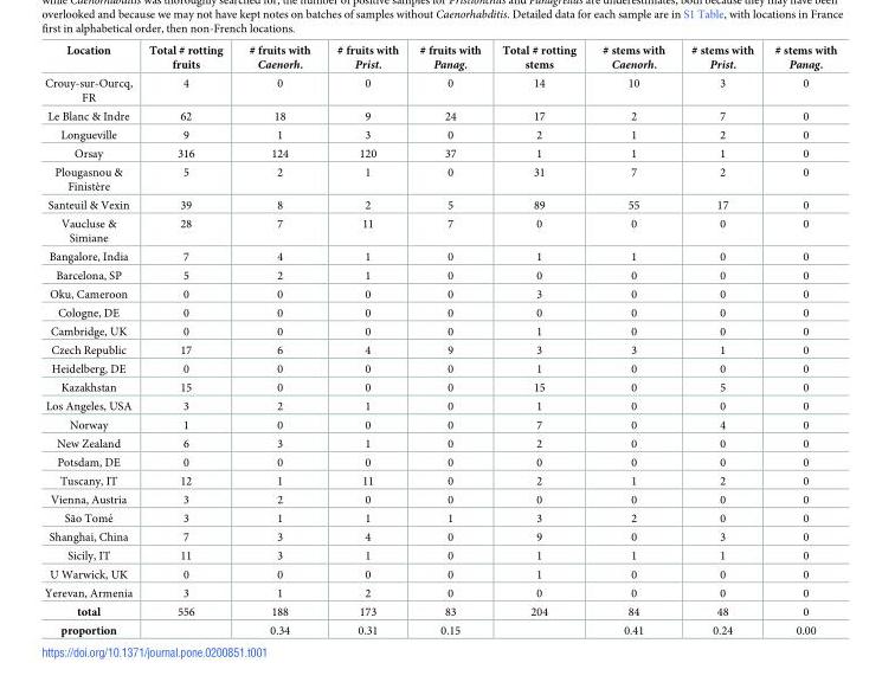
<table><thead><tr><td>Location</td><td>Total # rotting fruits</td><td># fruits with Caenorh.</td><td># fruits with Prist.</td><td># fruits with Panag.</td><td>Total # rotting stems</td><td># stems with Caenorh.</td><td># stems with Prist.</td><td># stems with Panag.</td></tr></thead><tbody><tr><td>Crouy-sur-Ourcq, FR</td><td>4</td><td>0</td><td>0</td><td>0</td><td>14</td><td>10</td><td>3</td><td>0</td></tr><tr><td>Le Blanc &amp; Indre</td><td>62</td><td>18</td><td>9</td><td>24</td><td>17</td><td>2</td><td>7</td><td>0</td></tr><tr><td>Longueville</td><td>9</td><td>1</td><td>3</td><td>0</td><td>2</td><td>1</td><td>2</td><td>0</td></tr><tr><td>Orsay</td><td>316</td><td>124</td><td>120</td><td>37</td><td>1</td><td>1</td><td>1</td><td>0</td></tr><tr><td>Plougasnou &amp; Finistère</td><td>5</td><td>2</td><td>1</td><td>0</td><td>31</td><td>7</td><td>2</td><td>0</td></tr><tr><td>Santeuil &amp; Vexin</td><td>39</td><td>8</td><td>2</td><td>5</td><td>89</td><td>55</td><td>17</td><td>0</td></tr><tr><td>Vaucluse &amp; Simiane</td><td>28</td><td>7</td><td>11</td><td>7</td><td>0</td><td>0</td><td>0</td><td>0</td></tr><tr><td>Bangalore, India</td><td>7</td><td>4</td><td>1</td><td>0</td><td>1</td><td>1</td><td>0</td><td>0</td></tr><tr><td>Barcelona, SP</td><td>5</td><td>2</td><td>1</td><td>0</td><td>0</td><td>0</td><td>0</td><td>0</td></tr><tr><td>Oku, Cameroon</td><td>0</td><td>0</td><td>0</td><td>0</td><td>3</td><td>0</td><td>0</td><td>0</td></tr><tr><td>Cologne, DE</td><td>0</td><td>0</td><td>0</td><td>0</td><td>0</td><td>0</td><td>0</td><td>0</td></tr><tr><td>Cambridge, UK</td><td>0</td><td>0</td><td>0</td><td>0</td><td>1</td><td>0</td><td>0</td><td>0</td></tr><tr><td>Czech Republic</td><td>17</td><td>6</td><td>4</td><td>9</td><td>3</td><td>3</td><td>1</td><td>0</td></tr><tr><td>Heidelberg, DE</td><td>0</td><td>0</td><td>0</td><td>0</td><td>1</td><td>0</td><td>0</td><td>0</td></tr><tr><td>Kazakhstan</td><td>15</td><td>0</td><td>0</td><td>0</td><td>15</td><td>0</td><td>5</td><td>0</td></tr><tr><td>Los Angeles, USA</td><td>3</td><td>2</td><td>1</td><td>0</td><td>1</td><td>0</td><td>0</td><td>0</td></tr><tr><td>Norway</td><td>1</td><td>0</td><td>0</td><td>0</td><td>7</td><td>0</td><td>4</td><td>0</td></tr><tr><td>New Zealand</td><td>6</td><td>3</td><td>1</td><td>0</td><td>2</td><td>0</td><td>0</td><td>0</td></tr><tr><td>Potsdam, DE</td><td>0</td><td>0</td><td>0</td><td>0</td><td>0</td><td>0</td><td>0</td><td>0</td></tr><tr><td>Tuscany, IT</td><td>12</td><td>1</td><td>11</td><td>0</td><td>2</td><td>1</td><td>2</td><td>0</td></tr><tr><td>Vienna, Austria</td><td>3</td><td>2</td><td>0</td><td>0</td><td>0</td><td>0</td><td>0</td><td>0</td></tr><tr><td>São Tome´</td><td>3</td><td>1</td><td>1</td><td>1</td><td>3</td><td>2</td><td>0</td><td>0</td></tr><tr><td>Shanghai, China</td><td>7</td><td>3</td><td>4</td><td>0</td><td>9</td><td>0</td><td>3</td><td>0</td></tr><tr><td>Sicily, IT</td><td>11</td><td>3</td><td>1</td><td>0</td><td>1</td><td>1</td><td>1</td><td>0</td></tr><tr><td>U Warwick, UK</td><td>0</td><td>0</td><td>0</td><td>0</td><td>1</td><td>0</td><td>0</td><td>0</td></tr><tr><td>Yerevan, Armenia</td><td>3</td><td>1</td><td>2</td><td>0</td><td>0</td><td>0</td><td>0</td><td>0</td></tr><tr><td>total</td><td>556</td><td>188</td><td>173</td><td>83</td><td>204</td><td>84</td><td>48</td><td>0</td></tr><tr><td>proportion</td><td></td><td>0.34</td><td>0.31</td><td>0.15</td><td></td><td>0.41</td><td>0.24</td><td>0.00</td></tr></tbody></table>